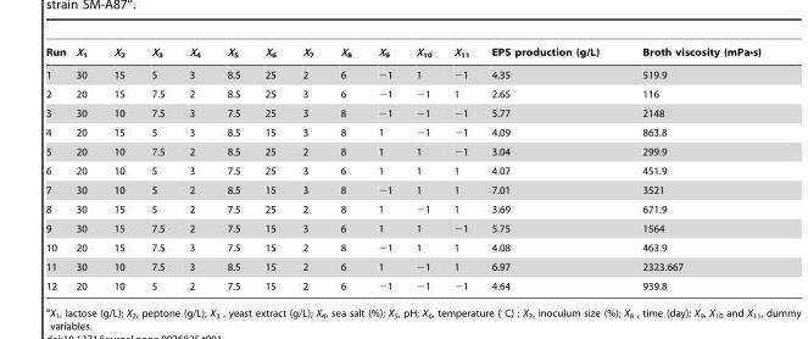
<table><thead><tr><td>Run</td><td>X<sub>1</sub></td><td>X<sub>2</sub></td><td>X<sub>3</sub></td><td>X<sub>4</sub></td><td>X<sub>5</sub></td><td>X<sub>6</sub></td><td>X<sub>7</sub></td><td>X<sub>8</sub></td><td>X<sub>9</sub></td><td>X<sub>10</sub></td><td>X<sub>11</sub></td><td>EPS production (g/L)</td><td>Broth viscosity (mPa•s)</td></tr></thead><tbody><tr><td>1</td><td>30</td><td>15</td><td>5</td><td>3</td><td>8.5</td><td>25</td><td>2</td><td>6</td><td>−1</td><td>1</td><td>−1</td><td>4.35</td><td>519.9</td></tr><tr><td>2</td><td>20</td><td>15</td><td>7.5</td><td>2</td><td>8.5</td><td>25</td><td>3</td><td>6</td><td>−1</td><td>−1</td><td>1</td><td>2.65</td><td>116</td></tr><tr><td>3</td><td>30</td><td>10</td><td>7.5</td><td>3</td><td>7.5</td><td>25</td><td>3</td><td>8</td><td>−1</td><td>−1</td><td>−1</td><td>5.77</td><td>2148</td></tr><tr><td>4</td><td>20</td><td>15</td><td>5</td><td>3</td><td>8.5</td><td>15</td><td>3</td><td>8</td><td>1</td><td>−1</td><td>−1</td><td>4.09</td><td>863.8</td></tr><tr><td>5</td><td>20</td><td>10</td><td>7.5</td><td>2</td><td>8.5</td><td>25</td><td>2</td><td>8</td><td>1</td><td>1</td><td>−1</td><td>3.04</td><td>299.9</td></tr><tr><td>6</td><td>20</td><td>10</td><td>5</td><td>3</td><td>7.5</td><td>25</td><td>3</td><td>6</td><td>1</td><td>1</td><td>1</td><td>4.07</td><td>451.9</td></tr><tr><td>7</td><td>30</td><td>10</td><td>5</td><td>2</td><td>8.5</td><td>15</td><td>3</td><td>8</td><td>−1</td><td>1</td><td>1</td><td>7.01</td><td>3521</td></tr><tr><td>8</td><td>30</td><td>15</td><td>5</td><td>2</td><td>7.5</td><td>25</td><td>2</td><td>8</td><td>1</td><td>−1</td><td>1</td><td>3.69</td><td>671.9</td></tr><tr><td>9</td><td>30</td><td>15</td><td>7.5</td><td>2</td><td>7.5</td><td>15</td><td>3</td><td>6</td><td>1</td><td>1</td><td>−1</td><td>5.75</td><td>1564</td></tr><tr><td>10</td><td>20</td><td>15</td><td>7.5</td><td>3</td><td>7.5</td><td>15</td><td>2</td><td>8</td><td>−1</td><td>1</td><td>1</td><td>4.08</td><td>463.9</td></tr><tr><td>11</td><td>30</td><td>10</td><td>7.5</td><td>3</td><td>8.5</td><td>15</td><td>2</td><td>6</td><td>1</td><td>−1</td><td>1</td><td>6.97</td><td>2323.667</td></tr><tr><td>12</td><td>20</td><td>10</td><td>5</td><td>2</td><td>7.5</td><td>15</td><td>2</td><td>6</td><td>−1</td><td>−1</td><td>−1</td><td>4.64</td><td>939.8</td></tr></tbody></table>